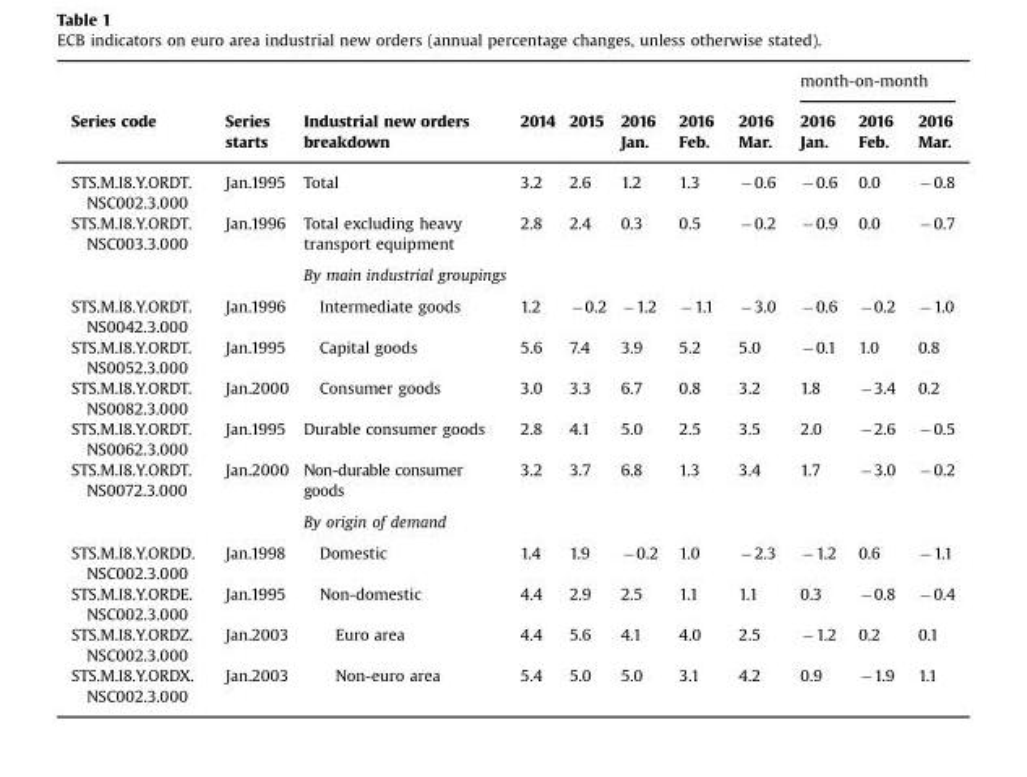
<table><thead><tr><td rowspan="2">Series code</td><td rowspan="2">Series starts</td><td rowspan="2">Industrial new orders breakdown</td><td rowspan="2">2014</td><td rowspan="2">2015</td><td rowspan="2">2016 Jan.</td><td rowspan="2">2016 Feb.</td><td rowspan="2">2016 Mar.</td><td colspan="3">month-on-month</td></tr><tr><td>2016 Jan.</td><td>2016 Feb.</td><td>2016 Mar.</td></tr></thead><tbody><tr><td>STS.M.I8.Y.ORDT. NSC002.3.000</td><td>Jan.1995</td><td>Total</td><td>3.2</td><td>2.6</td><td>1.2</td><td>1.3</td><td>−0.6</td><td>−0.6</td><td>0.0</td><td>−0.8</td></tr><tr><td rowspan="2">STS.M.I8.Y.ORDT. NSC003.3.000</td><td>Jan.1996</td><td>Total excluding heavy transport equipment</td><td>2.8</td><td>2.4</td><td>0.3</td><td>0.5</td><td>−0.2</td><td>−0.9</td><td>0.0</td><td>−0.7</td></tr><tr><td></td><td>By main industrial groupings</td><td></td><td></td><td></td><td></td><td></td><td></td><td></td><td></td></tr><tr><td>STS.M.I8.Y.ORDT. NS0042.3.000</td><td>Jan.1996</td><td>Intermediate goods</td><td>1.2</td><td>−0.2</td><td>−1.2</td><td>−1.1</td><td>−3.0</td><td>−0.6</td><td>−0.2</td><td>−1.0</td></tr><tr><td>STS.M.I8.Y.ORDT. NS0052.3.000</td><td>Jan.1995</td><td>Capital goods</td><td>5.6</td><td>7.4</td><td>3.9</td><td>5.2</td><td>5.0</td><td>−0.1</td><td>1.0</td><td>0.8</td></tr><tr><td>STS.M.I8.Y.ORDT. NS0082.3.000</td><td>Jan.2000</td><td>Consumer goods</td><td>3.0</td><td>3.3</td><td>6.7</td><td>0.8</td><td>3.2</td><td>1.8</td><td>−3.4</td><td>0.2</td></tr><tr><td>STS.M.I8.Y.ORDT. NS0062.3.000</td><td>Jan.1995</td><td>Durable consumer goods</td><td>2.8</td><td>4.1</td><td>5.0</td><td>2.5</td><td>3.5</td><td>2.0</td><td>−2.6</td><td>−0.5</td></tr><tr><td rowspan="2">STS.M.I8.Y.ORDT. NS0072.3.000</td><td>Jan.2000</td><td>Non-durable consumer goods</td><td>3.2</td><td>3.7</td><td>6.8</td><td>1.3</td><td>3.4</td><td>1.7</td><td>−3.0</td><td>−0.2</td></tr><tr><td></td><td>By origin of demand</td><td></td><td></td><td></td><td></td><td></td><td></td><td></td><td></td></tr><tr><td>STS.M.I8.Y.ORDD. NSC002.3.000</td><td>Jan.1998</td><td>Domestic</td><td>1.4</td><td>1.9</td><td>−0.2</td><td>1.0</td><td>−2.3</td><td>−1.2</td><td>0.6</td><td>−1.1</td></tr><tr><td>STS.M.I8.Y.ORDE. NSC002.3.000</td><td>Jan.1995</td><td>Non-domestic</td><td>4.4</td><td>2.9</td><td>2.5</td><td>1.1</td><td>1.1</td><td>0.3</td><td>−0.8</td><td>−0.4</td></tr><tr><td>STS.M.I8.Y.ORDZ. NSC002.3.000</td><td>Jan.2003</td><td>Euro area</td><td>4.4</td><td>5.6</td><td>4.1</td><td>4.0</td><td>2.5</td><td>−1.2</td><td>0.2</td><td>0.1</td></tr><tr><td>STS.M.I8.Y.ORDX. NSC002.3.000</td><td>Jan.2003</td><td>Non-euro area</td><td>5.4</td><td>5.0</td><td>5.0</td><td>3.1</td><td>4.2</td><td>0.9</td><td>−1.9</td><td>1.1</td></tr></tbody></table>